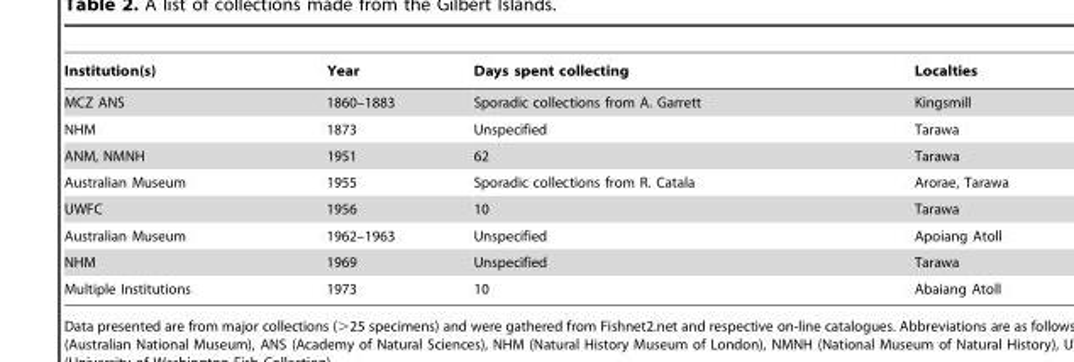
<table><thead><tr><td>Institution(s)</td><td>Year</td><td>Days spent collecting</td><td>Localties</td></tr></thead><tbody><tr><td>MCZ ANS</td><td>1860–1883</td><td>Sporadic collections from A. Garrett</td><td>Kingsmill</td></tr><tr><td>NHM</td><td>1873</td><td>Unspecified</td><td>Tarawa</td></tr><tr><td>ANM, NMNH</td><td>1951</td><td>62</td><td>Tarawa</td></tr><tr><td>Australian Museum</td><td>1955</td><td>Sporadic collections from R. Catala</td><td>Arorae, Tarawa</td></tr><tr><td>UWFC</td><td>1956</td><td>10</td><td>Tarawa</td></tr><tr><td>Australian Museum</td><td>1962–1963</td><td>Unspecified</td><td>Apoiang Atoll</td></tr><tr><td>NHM</td><td>1969</td><td>Unspecified</td><td>Tarawa</td></tr><tr><td>Multiple Institutions</td><td>1973</td><td>10</td><td>Abaiang Atoll</td></tr></tbody></table>